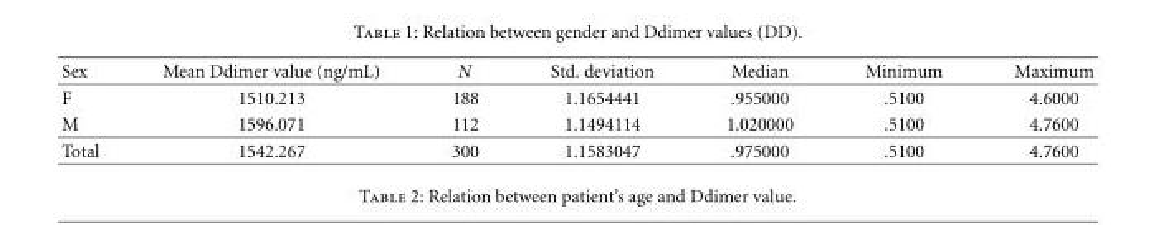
<table><thead><tr><td>Sex</td><td>Mean Ddimer value (ng/mL)</td><td>N</td><td>Std. deviation</td><td>Median</td><td>Minimum</td><td>Maximum</td></tr></thead><tbody><tr><td>F</td><td>1510.213</td><td>188</td><td>1.1654441</td><td>.955000</td><td>.5100</td><td>4.6000</td></tr><tr><td>M</td><td>1596.071</td><td>112</td><td>1.1494114</td><td>1.020000</td><td>.5100</td><td>4.7600</td></tr><tr><td>Total</td><td>1542.267</td><td>300</td><td>1.1583047</td><td>.975000</td><td>.5100</td><td>4.7600</td></tr></tbody></table>